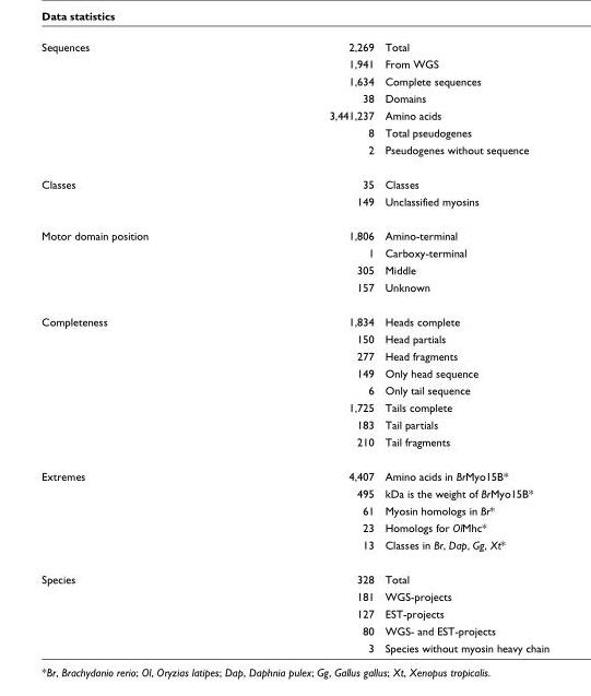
<table><tbody><tr><td rowspan="7">Sequences</td><td>2,269</td><td>Total</td></tr><tr><td>1,941</td><td>From WGS</td></tr><tr><td>1,634</td><td>Complete sequences</td></tr><tr><td>38</td><td>Domains</td></tr><tr><td>3,441,237</td><td>Amino acids</td></tr><tr><td>8</td><td>Total pseudogenes</td></tr><tr><td>2</td><td>Pseudogenes without sequence</td></tr><tr><td rowspan="2">Classes</td><td>35</td><td>Classes</td></tr><tr><td>149</td><td>Unclassified myosins</td></tr><tr><td rowspan="4">Motor domain position</td><td>1,806</td><td>Amino-terminal</td></tr><tr><td>1</td><td>Carboxy-terminal</td></tr><tr><td>305</td><td>Middle</td></tr><tr><td>157</td><td>Unknown</td></tr><tr><td rowspan="8">Completeness</td><td>1,834</td><td>Heads complete</td></tr><tr><td>150</td><td>Head partials</td></tr><tr><td>277</td><td>Head fragments</td></tr><tr><td>149</td><td>Only head sequence</td></tr><tr><td>6</td><td>Only tail sequence</td></tr><tr><td>1,725</td><td>Tails complete</td></tr><tr><td>183</td><td>Tail partials</td></tr><tr><td>210</td><td>Tail fragments</td></tr><tr><td rowspan="5">Extremes</td><td>4,407</td><td>Amino acids in BrMyo15B*</td></tr><tr><td>495</td><td>kDa is the weight of BrMyo15B*</td></tr><tr><td>61</td><td>Myosin homologs in Br*</td></tr><tr><td>23</td><td>Homologs for OlMhc*</td></tr><tr><td>13</td><td>Classes in Br, Dap, Gg, Xt*</td></tr><tr><td rowspan="5">Species</td><td>328</td><td>Total</td></tr><tr><td>181</td><td>WGS-projects</td></tr><tr><td>127</td><td>EST-projects</td></tr><tr><td>80</td><td>WGS- and EST-projects</td></tr><tr><td>3</td><td>Species without myosin heavy chain</td></tr></tbody></table>